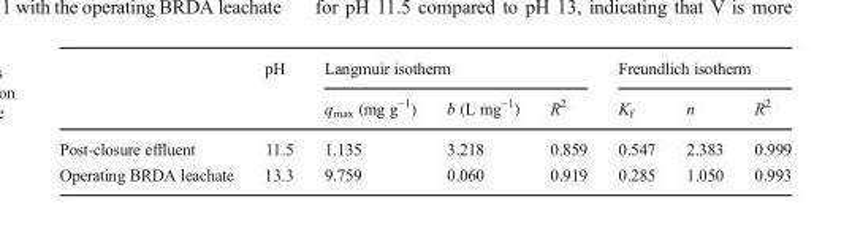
<table><thead><tr><td rowspan="2"></td><td rowspan="2">pH</td><td colspan="3">Langmuir isotherm</td><td colspan="3">Freundlich isotherm</td></tr><tr><td>q<sub>max</sub> (mg g<sup>−1</sup>)</td><td>b (L mg<sup>−1</sup>)</td><td>R<sup>2</sup></td><td>K<sub>f</sub></td><td>n</td><td>R<sup>2</sup></td></tr></thead><tbody><tr><td>Post-closure effluent</td><td>11.5</td><td>1.135</td><td>3.218</td><td>0.859</td><td>0.547</td><td>2.383</td><td>0.999</td></tr><tr><td>Operating BRDA leachate</td><td>13.3</td><td>9.759</td><td>0.060</td><td>0.919</td><td>0.285</td><td>1.050</td><td>0.993</td></tr></tbody></table>